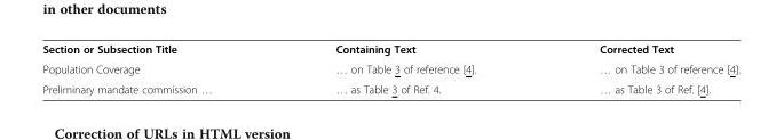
<table><tbody><tr><td>Section or Subsection Title</td><td>Containing Text</td><td>Corrected Text</td></tr><tr><td>Population Coverage</td><td>… on Table 3 of reference [4].</td><td>… on Table 3 of reference [4].</td></tr><tr><td>Preliminary mandate commission …</td><td>… as Table 3 of Ref. 4.</td><td>… as Table 3 of Ref. [4].</td></tr></tbody></table>